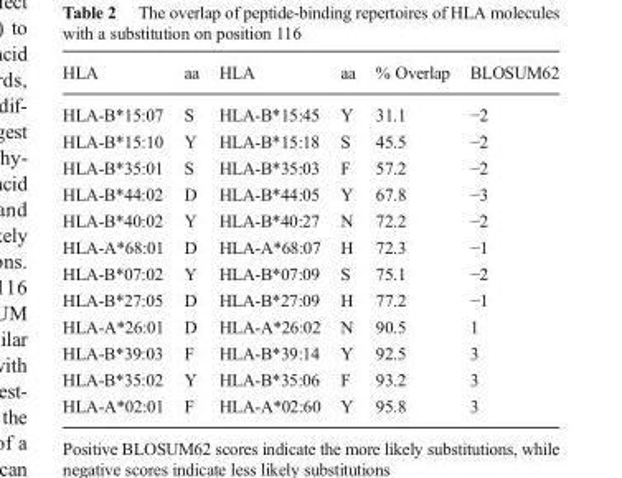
<table><thead><tr><td>HLA</td><td>aa</td><td>HLA</td><td>aa</td><td>% Overlap</td><td>BLOSUM62</td></tr></thead><tbody><tr><td>HLA-B*15:07</td><td>S</td><td>HLA-B*15:45</td><td>Y</td><td>31.1</td><td>−2</td></tr><tr><td>HLA-B*15:10</td><td>Y</td><td>HLA-B*15:18</td><td>S</td><td>45.5</td><td>−2</td></tr><tr><td>HLA-B*35:01</td><td>S</td><td>HLA-B*35:03</td><td>F</td><td>57.2</td><td>−2</td></tr><tr><td>HLA-B*44:02</td><td>D</td><td>HLA-B*44:05</td><td>Y</td><td>67.8</td><td>−3</td></tr><tr><td>HLA-B*40:02</td><td>Y</td><td>HLA-B*40:27</td><td>N</td><td>72.2</td><td>−2</td></tr><tr><td>HLA-A*68:01</td><td>D</td><td>HLA-A*68:07</td><td>H</td><td>72.3</td><td>−1</td></tr><tr><td>HLA-B*07:02</td><td>Y</td><td>HLA-B*07:09</td><td>S</td><td>75.1</td><td>−2</td></tr><tr><td>HLA-B*27:05</td><td>D</td><td>HLA-B*27:09</td><td>H</td><td>77.2</td><td>−1</td></tr><tr><td>HLA-A*26:01</td><td>D</td><td>HLA-A*26:02</td><td>N</td><td>90.5</td><td>1</td></tr><tr><td>HLA-B*39:03</td><td>F</td><td>HLA-B*39:14</td><td>Y</td><td>92.5</td><td>3</td></tr><tr><td>HLA-B*35:02</td><td>Y</td><td>HLA-B*35:06</td><td>F</td><td>93.2</td><td>3</td></tr><tr><td>HLA-A*02:01</td><td>F</td><td>HLA-A*02:60</td><td>Y</td><td>95.8</td><td>3</td></tr></tbody></table>